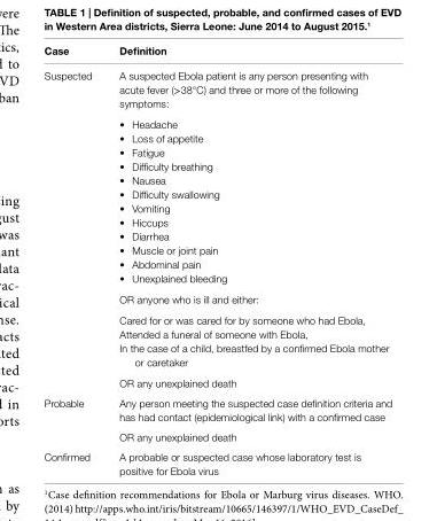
<table><thead><tr><td>case</td><td>Definition</td></tr></thead><tbody><tr><td rowspan="5">Suspected</td><td>A suspected Ebola patient is any person presenting with acute fever (&gt;38°C) and three or more of the following symptoms:</td></tr><tr><td>• Headache • Loss of appetite • Fatigue • Difficulty breathing • Nausea • Difficulty swallowing • Vomiting • Hiccups • Diarrhea • Muscle or joint pain • Abdominal pain • Unexplained bleeding</td></tr><tr><td>OR anyone who is ill and either:</td></tr><tr><td>Cared for or was cared for by someone who had Ebola, Attended a funeral of someone with Ebola, In the case of a child, breastfed by a confirmed Ebola mother or caretaker</td></tr><tr><td>OR any unexplained death</td></tr><tr><td rowspan="2">Probable</td><td>Any person meeting the suspected case definition criteria and has had contact (epidemiological link) with a confirmed case</td></tr><tr><td>OR any unexplained death</td></tr><tr><td>Confirmed</td><td>A probable or suspected case whose laboratory test is positive for Ebola virus</td></tr></tbody></table>